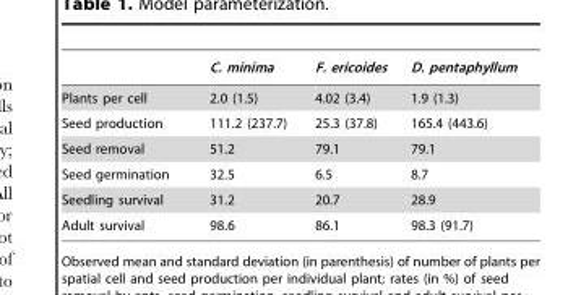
<table><thead><tr><td></td><td>C. minima</td><td>F. ericoides</td><td>D. pentaphyllum</td></tr></thead><tbody><tr><td>Plants per cell</td><td>2.0 (1.5)</td><td>4.02 (3.4)</td><td>1.9 (1.3)</td></tr><tr><td>Seed production</td><td>111.2 (237.7)</td><td>25.3 (37.8)</td><td>165.4 (443.6)</td></tr><tr><td>Seed removal</td><td>51.2</td><td>79.1</td><td>79.1</td></tr><tr><td>Seed germination</td><td>32.5</td><td>6.5</td><td>8.7</td></tr><tr><td>Seedling survival</td><td>31.2</td><td>20.7</td><td>28.9</td></tr><tr><td>Adult survival</td><td>98.6</td><td>86.1</td><td>98.3 (91.7)</td></tr></tbody></table>